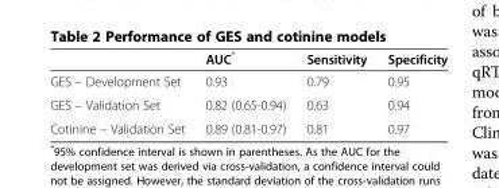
<table><thead><tr><td></td><td>AUC*</td><td>Sensitivity</td><td>Specificity</td></tr></thead><tbody><tr><td>GES – Development Set</td><td>0.93</td><td>0.79</td><td>0.95</td></tr><tr><td>GES – Validation Set</td><td>0.82 (0.65-0.94)</td><td>0.63</td><td>0.94</td></tr><tr><td>Cotinine – Validation Set</td><td>0.89 (0.81-0.97)</td><td>0.81</td><td>0.97</td></tr></tbody></table>